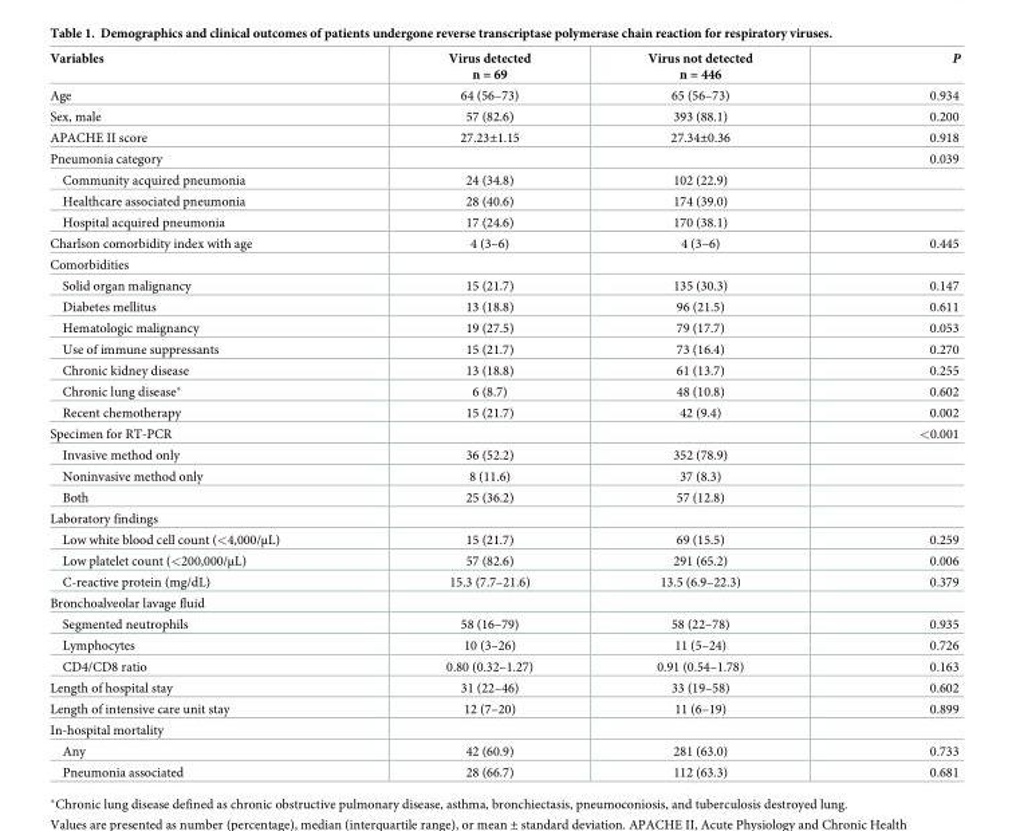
<table><thead><tr><td>Variables</td><td>Virus detected n = 69</td><td>Virus not detected n = 446</td><td>P</td></tr></thead><tbody><tr><td>Age</td><td>64 (56–73)</td><td>65 (56–73)</td><td>0.934</td></tr><tr><td>Sex, male</td><td>57 (82.6)</td><td>393 (88.1)</td><td>0.200</td></tr><tr><td>APACHE II score</td><td>27.23±1.15</td><td>27.34±0.36</td><td>0.918</td></tr><tr><td>Pneumonia category</td><td></td><td></td><td>0.039</td></tr><tr><td>Community acquired pneumonia</td><td>24 (34.8)</td><td>102 (22.9)</td><td></td></tr><tr><td>Healthcare associated pneumonia</td><td>28 (40.6)</td><td>174 (39.0)</td><td></td></tr><tr><td>Hospital acquired pneumonia</td><td>17 (24.6)</td><td>170 (38.1)</td><td></td></tr><tr><td>Charlson comorbidity index with age</td><td>4 (3–6)</td><td>4 (3–6)</td><td>0.445</td></tr><tr><td colspan="4">Comorbidities</td></tr><tr><td>Solid organ malignancy</td><td>15 (21.7)</td><td>135 (30.3)</td><td>0.147</td></tr><tr><td>Diabetes mellitus</td><td>13 (18.8)</td><td>96 (21.5)</td><td>0.611</td></tr><tr><td>Hematologic malignancy</td><td>19 (27.5)</td><td>79 (17.7)</td><td>0.053</td></tr><tr><td>Use of immune suppressants</td><td>15 (21.7)</td><td>73 (16.4)</td><td>0.270</td></tr><tr><td>Chronic kidney disease</td><td>13 (18.8)</td><td>61 (13.7)</td><td>0.255</td></tr><tr><td>Chronic lung disease*</td><td>6 (8.7)</td><td>48 (10.8)</td><td>0.602</td></tr><tr><td>Recent chemotherapy</td><td>15 (21.7)</td><td>42 (9.4)</td><td>0.002</td></tr><tr><td>Specimen for RT-PCR</td><td></td><td></td><td>&lt;0.001</td></tr><tr><td>Invasive method only</td><td>36 (52.2)</td><td>352 (78.9)</td><td></td></tr><tr><td>Noninvasive method only</td><td>8 (11.6)</td><td>37 (8.3)</td><td></td></tr><tr><td>Both</td><td>25 (36.2)</td><td>57 (12.8)</td><td></td></tr><tr><td colspan="4">Laboratory findings</td></tr><tr><td>Low white blood cell count (&lt;4,000/μL)</td><td>15 (21.7)</td><td>69 (15.5)</td><td>0.259</td></tr><tr><td>Low platelet count (&lt;200,000/μL)</td><td>57 (82.6)</td><td>291 (65.2)</td><td>0.006</td></tr><tr><td>C-reactive protein (mg/dL)</td><td>15.3 (7.7–21.6)</td><td>13.5 (6.9–22.3)</td><td>0.379</td></tr><tr><td colspan="4">Bronchoalveolar lavage fluid</td></tr><tr><td>Segmented neutrophils</td><td>58 (16–79)</td><td>58 (22–78)</td><td>0.935</td></tr><tr><td>Lymphocytes</td><td>10 (3–26)</td><td>11 (5–24)</td><td>0.726</td></tr><tr><td>CD4/CD8 ratio</td><td>0.80 (0.32–1.27)</td><td>0.91 (0.54–1.78)</td><td>0.163</td></tr><tr><td>Length of hospital stay</td><td>31 (22–46)</td><td>33 (19–58)</td><td>0.602</td></tr><tr><td>Length of intensive care unit stay</td><td>12 (7–20)</td><td>11 (6–19)</td><td>0.899</td></tr><tr><td colspan="4">In-hospital mortality</td></tr><tr><td>Any</td><td>42 (60.9)</td><td>281 (63.0)</td><td>0.733</td></tr><tr><td>Pneumonia associated</td><td>28 (66.7)</td><td>112 (63.3)</td><td>0.681</td></tr></tbody></table>